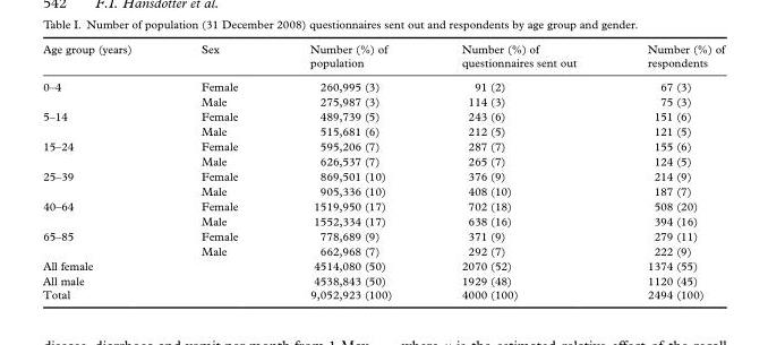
<table><thead><tr><td>Age group (years)</td><td>Sex</td><td>Number (%) of population</td><td>Number (%) of questionnaires sent out</td><td>Number (%) of respondents</td></tr></thead><tbody><tr><td rowspan="2">0–4</td><td>Female</td><td>260,995 (3)</td><td>91 (2)</td><td>67 (3)</td></tr><tr><td>Male</td><td>275,987 (3)</td><td>114 (3)</td><td>75 (3)</td></tr><tr><td rowspan="2">5–14</td><td>Female</td><td>489,739 (5)</td><td>243 (6)</td><td>151 (6)</td></tr><tr><td>Male</td><td>515,681 (6)</td><td>212 (5)</td><td>121 (5)</td></tr><tr><td rowspan="2">15–24</td><td>Female</td><td>595,206 (7)</td><td>287 (7)</td><td>155 (6)</td></tr><tr><td>Male</td><td>626,537 (7)</td><td>265 (7)</td><td>124 (5)</td></tr><tr><td rowspan="2">25–39</td><td>Female</td><td>869,501 (10)</td><td>376 (9)</td><td>214 (9)</td></tr><tr><td>Male</td><td>905,336 (10)</td><td>408 (10)</td><td>187 (7)</td></tr><tr><td rowspan="2">40–64</td><td>Female</td><td>1519,950 (17)</td><td>702 (18)</td><td>508 (20)</td></tr><tr><td>Male</td><td>1552,334 (17)</td><td>638 (16)</td><td>394 (16)</td></tr><tr><td rowspan="2">65–85</td><td>Female</td><td>778,689 (9)</td><td>371 (9)</td><td>279 (11)</td></tr><tr><td>Male</td><td>662,968 (7)</td><td>292 (7)</td><td>222 (9)</td></tr><tr><td>All female</td><td></td><td>4514,080 (50)</td><td>2070 (52)</td><td>1374 (55)</td></tr><tr><td>All male</td><td></td><td>4538,843 (50)</td><td>1929 (48)</td><td>1120 (45)</td></tr><tr><td>total</td><td></td><td>9,052,923 (100)</td><td>4000 (100)</td><td>2494 (100)</td></tr></tbody></table>